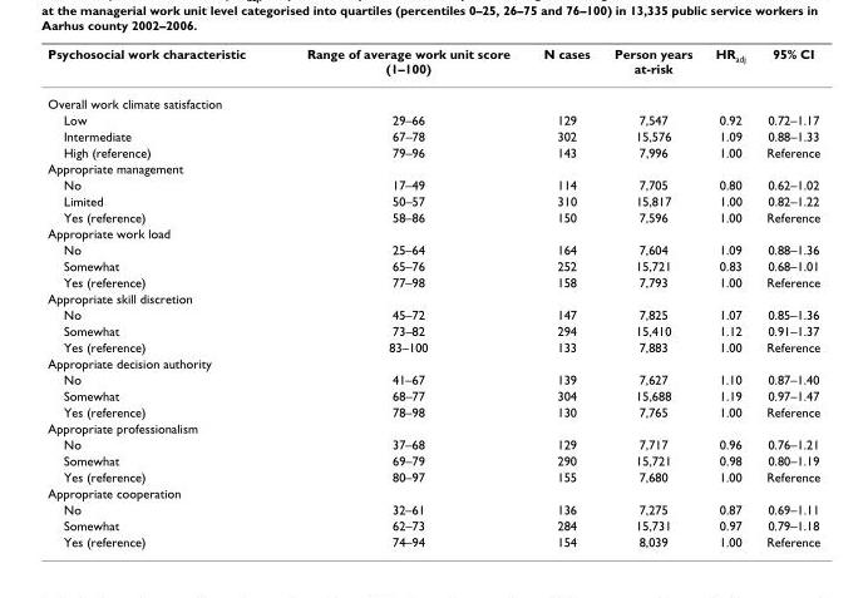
<table><thead><tr><td>Psychosocial work characteristic</td><td>Range of average work unit score (1–100)</td><td>N cases</td><td>Person years at-risk</td><td>HR<sub>adj</sub></td><td>95% CI</td></tr></thead><tbody><tr><td colspan="6">Overall work climate satisfaction</td></tr><tr><td>Low</td><td>29–66</td><td>129</td><td>7,547</td><td>0.92</td><td>0.72–1.17</td></tr><tr><td>Intermediate</td><td>67–78</td><td>302</td><td>15,576</td><td>1.09</td><td>0.88–1.33</td></tr><tr><td>High (reference)</td><td>79–96</td><td>143</td><td>7,996</td><td>1.00</td><td>Reference</td></tr><tr><td colspan="6">Appropriate management</td></tr><tr><td>No</td><td>17–49</td><td>114</td><td>7,705</td><td>0.80</td><td>0.62–1.02</td></tr><tr><td>Limited</td><td>50–57</td><td>310</td><td>15,817</td><td>1.00</td><td>0.82–1.22</td></tr><tr><td>Yes (reference)</td><td>58–86</td><td>150</td><td>7,596</td><td>1.00</td><td>Reference</td></tr><tr><td colspan="6">Appropriate work load</td></tr><tr><td>No</td><td>25–64</td><td>164</td><td>7,604</td><td>1.09</td><td>0.88–1.36</td></tr><tr><td>Somewhat</td><td>65–76</td><td>252</td><td>15,721</td><td>0.83</td><td>0.68–1.01</td></tr><tr><td>Yes (reference)</td><td>77–98</td><td>158</td><td>7,793</td><td>1.00</td><td>Reference</td></tr><tr><td colspan="6">Appropriate skill discretion</td></tr><tr><td>No</td><td>45–72</td><td>147</td><td>7,825</td><td>1.07</td><td>0.85–1.36</td></tr><tr><td>Somewhat</td><td>73–82</td><td>294</td><td>15,410</td><td>1.12</td><td>0.91–1.37</td></tr><tr><td>Yes (reference)</td><td>83–100</td><td>133</td><td>7,883</td><td>1.00</td><td>Reference</td></tr><tr><td colspan="6">Appropriate decision authority</td></tr><tr><td>No</td><td>41–67</td><td>139</td><td>7,627</td><td>1.10</td><td>0.87–1.40</td></tr><tr><td>Somewhat</td><td>68–77</td><td>304</td><td>15,688</td><td>1.19</td><td>0.97–1.47</td></tr><tr><td>Yes (reference)</td><td>78–98</td><td>130</td><td>7,765</td><td>1.00</td><td>Reference</td></tr><tr><td colspan="6">Appropriate professionalism</td></tr><tr><td>No</td><td>37–68</td><td>129</td><td>7,717</td><td>0.96</td><td>0.76–1.21</td></tr><tr><td>Somewhat</td><td>69–79</td><td>290</td><td>15,721</td><td>0.98</td><td>0.80–1.19</td></tr><tr><td>Yes (reference)</td><td>80–97</td><td>155</td><td>7,680</td><td>1.00</td><td>Reference</td></tr><tr><td colspan="6">Appropriate cooperation</td></tr><tr><td>No</td><td>32–61</td><td>136</td><td>7,275</td><td>0.87</td><td>0.69–1.11</td></tr><tr><td>Somewhat</td><td>62–73</td><td>284</td><td>15,731</td><td>0.97</td><td>0.79–1.18</td></tr><tr><td>Yes (reference)</td><td>74–94</td><td>154</td><td>8,039</td><td>1.00</td><td>Reference</td></tr></tbody></table>